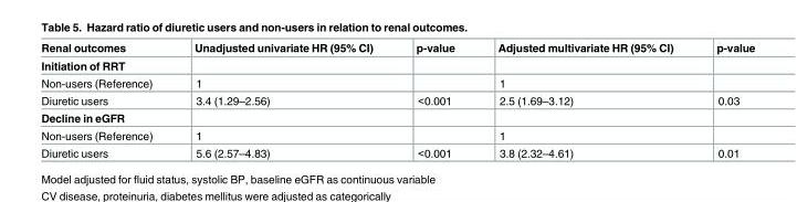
<table><thead><tr><td>Renal outcomes</td><td>Unadjusted univariate HR (95% CI)</td><td>p-value</td><td>Adjusted multivariate HR (95% CI)</td><td>p-value</td></tr></thead><tbody><tr><td colspan="5">Initiation of RRT</td></tr><tr><td>Non-users (Reference)</td><td>1</td><td></td><td>1</td><td></td></tr><tr><td>Diuretic users</td><td>3.4 (1.29–2.56)</td><td>&lt;0.001</td><td>2.5 (1.69–3.12)</td><td>0.03</td></tr><tr><td colspan="5">Decline in eGFR</td></tr><tr><td>Non-users (Reference)</td><td>1</td><td></td><td>1</td><td></td></tr><tr><td>Diuretic users</td><td>5.6 (2.57–4.83)</td><td>&lt;0.001</td><td>3.8 (2.32–4.61)</td><td>0.01</td></tr></tbody></table>